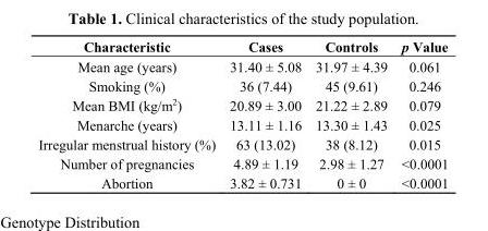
<table><thead><tr><td>Characteristic</td><td>Cases</td><td>Controls</td><td>p Value</td></tr></thead><tbody><tr><td>Mean age (years)</td><td>31.40 ± 5.08</td><td>31.97 ± 4.39</td><td>0.061</td></tr><tr><td>Smoking (%)</td><td>36 (7.44)</td><td>45 (9.61)</td><td>0.246</td></tr><tr><td>Mean BMI (kg/m<sup>2</sup>)</td><td>20.89 ± 3.00</td><td>21.22 ± 2.89</td><td>0.079</td></tr><tr><td>Menarche (years)</td><td>13.11 ± 1.16</td><td>13.30 ± 1.43</td><td>0.025</td></tr><tr><td>Irregular menstrual history (%)</td><td>63 (13.02)</td><td>38 (8.12)</td><td>0.015</td></tr><tr><td>Number of pregnancies</td><td>4.89 ± 1.19</td><td>2.98 ± 1.27</td><td>&lt;0.0001</td></tr><tr><td>Abortion</td><td>3.82 ± 0.731</td><td>0 ± 0</td><td>&lt;0.0001</td></tr></tbody></table>